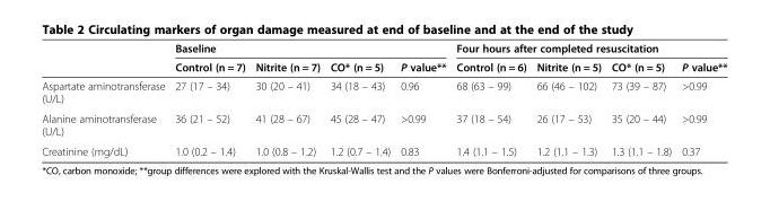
<table><thead><tr><td rowspan="2"></td><td colspan="4">Baseline</td><td colspan="4">Four hours after completed resuscitation</td></tr><tr><td>Control (n = 7)</td><td>Nitrite (n = 7)</td><td>CO* (n = 5)</td><td>P value**</td><td>Control (n = 6)</td><td>Nitrite (n = 5)</td><td>CO* (n = 5)</td><td>P value**</td></tr></thead><tbody><tr><td>Aspartate aminotransferase (U/L)</td><td>27 (17 – 34)</td><td>30 (20 – 41)</td><td>34 (18 – 43)</td><td>0.96</td><td>68 (63 – 99)</td><td>66 (46 – 102)</td><td>73 (39 – 87)</td><td>&gt;0.99</td></tr><tr><td>Alanine aminotransferase (U/L)</td><td>36 (21 – 52)</td><td>41 (28 – 67)</td><td>45 (28 – 47)</td><td>&gt;0.99</td><td>37 (18 – 54)</td><td>26 (17 – 53)</td><td>35 (20 – 44)</td><td>&gt;0.99</td></tr><tr><td>Creatinine (mg/dL)</td><td>1.0 (0.2 – 1.4)</td><td>1.0 (0.8 – 1.2)</td><td>1.2 (0.7 – 1.4)</td><td>0.83</td><td>1.4 (1.1 – 1.5)</td><td>1.2 (1.1 – 1.3)</td><td>1.3 (1.1 – 1.8)</td><td>0.37</td></tr></tbody></table>